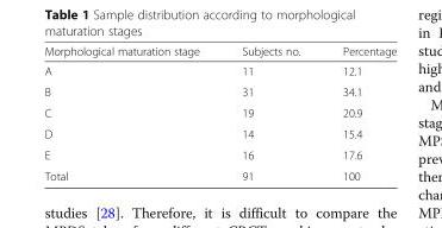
<table><thead><tr><td>Morphological maturation stage</td><td>Subjects no.</td><td>Percentage</td></tr></thead><tbody><tr><td>A</td><td>11</td><td>12.1</td></tr><tr><td>B</td><td>31</td><td>34.1</td></tr><tr><td>C</td><td>19</td><td>20.9</td></tr><tr><td>D</td><td>14</td><td>15.4</td></tr><tr><td>E</td><td>16</td><td>17.6</td></tr><tr><td>Total</td><td>91</td><td>100</td></tr></tbody></table>